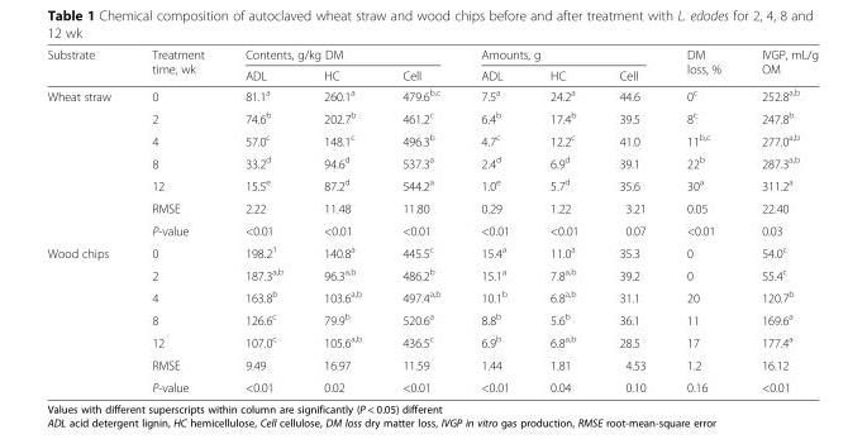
<table><thead><tr><td rowspan="2">Substrate</td><td rowspan="2">Treatment time, wk</td><td colspan="3">Contents, g/kg DM</td><td colspan="3">Amounts, g</td><td rowspan="2">DM loss, %</td><td rowspan="2">IVGP, mL/g OM</td></tr><tr><td>ADL</td><td>HC</td><td>Cell</td><td>ADL</td><td>HC</td><td>Cell</td></tr></thead><tbody><tr><td rowspan="7">Wheat straw</td><td>0</td><td>81.1<sup>a</sup></td><td>260.1<sup>a</sup></td><td>479.6<sup>b,c</sup></td><td>7.5<sup>a</sup></td><td>24.2<sup>a</sup></td><td>44.6</td><td>0<sup>c</sup></td><td>252.8<sup>a,b</sup></td></tr><tr><td>2</td><td>74.6<sup>b</sup></td><td>202.7<sup>b</sup></td><td>461.2<sup>c</sup></td><td>6.4<sup>b</sup></td><td>17.4<sup>b</sup></td><td>39.5</td><td>8<sup>c</sup></td><td>247.8<sup>b</sup></td></tr><tr><td>4</td><td>57.0<sup>c</sup></td><td>148.1<sup>c</sup></td><td>496.3<sup>b</sup></td><td>4.7<sup>c</sup></td><td>12.2<sup>c</sup></td><td>41.0</td><td>11<sup>b,c</sup></td><td>277.0<sup>a,b</sup></td></tr><tr><td>8</td><td>33.2<sup>d</sup></td><td>94.6<sup>d</sup></td><td>537.3<sup>a</sup></td><td>2.4<sup>d</sup></td><td>6.9<sup>d</sup></td><td>39.1</td><td>22<sup>b</sup></td><td>287.3<sup>a,b</sup></td></tr><tr><td>12</td><td>15.5<sup>e</sup></td><td>87.2<sup>d</sup></td><td>544.2<sup>a</sup></td><td>1.0<sup>e</sup></td><td>5.7<sup>d</sup></td><td>35.6</td><td>30<sup>a</sup></td><td>311.2<sup>a</sup></td></tr><tr><td>RMSE</td><td>2.22</td><td>11.48</td><td>11.80</td><td>0.29</td><td>1.22</td><td>3.21</td><td>0.05</td><td>22.40</td></tr><tr><td>P-value</td><td>&lt;0.01</td><td>&lt;0.01</td><td>&lt;0.01</td><td>&lt;0.01</td><td>&lt;0.01</td><td>0.07</td><td>&lt;0.01</td><td>0.03</td></tr><tr><td rowspan="7">Wood chips</td><td>0</td><td>198.2<sup>1</sup></td><td>140.8<sup>a</sup></td><td>445.5<sup>c</sup></td><td>15.4<sup>a</sup></td><td>11.0<sup>a</sup></td><td>35.3</td><td>0</td><td>54.0<sup>c</sup></td></tr><tr><td>2</td><td>187.3<sup>a,b</sup></td><td>96.3<sup>a,b</sup></td><td>486.2<sup>b</sup></td><td>15.1<sup>a</sup></td><td>7.8<sup>a,b</sup></td><td>39.2</td><td>0</td><td>55.4<sup>c</sup></td></tr><tr><td>4</td><td>163.8<sup>b</sup></td><td>103.6<sup>a,b</sup></td><td>497.4<sup>a,b</sup></td><td>10.1<sup>b</sup></td><td>6.8<sup>a,b</sup></td><td>31.1</td><td>20</td><td>120.7<sup>b</sup></td></tr><tr><td>8</td><td>126.6<sup>c</sup></td><td>79.9<sup>b</sup></td><td>520.6<sup>a</sup></td><td>8.8<sup>b</sup></td><td>5.6<sup>b</sup></td><td>36.1</td><td>11</td><td>169.6<sup>a</sup></td></tr><tr><td>12</td><td>107.0<sup>c</sup></td><td>105.6<sup>a,b</sup></td><td>436.5<sup>c</sup></td><td>6.9<sup>b</sup></td><td>6.8<sup>a,b</sup></td><td>28.5</td><td>17</td><td>177.4<sup>a</sup></td></tr><tr><td>RMSE</td><td>9.49</td><td>16.97</td><td>11.59</td><td>1.44</td><td>1.81</td><td>4.53</td><td>1.2</td><td>16.12</td></tr><tr><td>P-value</td><td>&lt;0.01</td><td>0.02</td><td>&lt;0.01</td><td>&lt;0.01</td><td>0.04</td><td>0.10</td><td>0.16</td><td>&lt;0.01</td></tr></tbody></table>